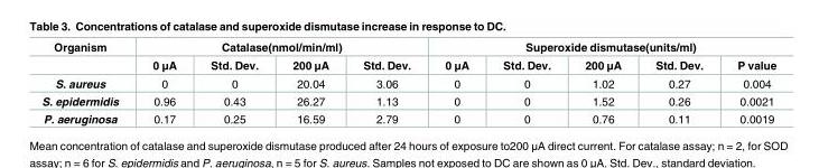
<table><thead><tr><td rowspan="2">Organism</td><td colspan="4">Catalase(nmol/min/ml)</td><td colspan="5">Superoxide dismutase(units/ml)</td></tr><tr><td>0 μA</td><td>Std. Dev.</td><td>200 μA</td><td>Std. Dev.</td><td>0 μA</td><td>Std. Dev.</td><td>200 μA</td><td>Std. Dev.</td><td>P value</td></tr></thead><tbody><tr><td>S. aureus</td><td>0</td><td>0</td><td>20.04</td><td>3.06</td><td>0</td><td>0</td><td>1.02</td><td>0.27</td><td>0.004</td></tr><tr><td>S. epidermidis</td><td>0.96</td><td>0.43</td><td>26.27</td><td>1.13</td><td>0</td><td>0</td><td>1.52</td><td>0.26</td><td>0.0021</td></tr><tr><td>P. aeruginosa</td><td>0.17</td><td>0.25</td><td>16.59</td><td>2.79</td><td>0</td><td>0</td><td>0.76</td><td>0.11</td><td>0.0019</td></tr></tbody></table>